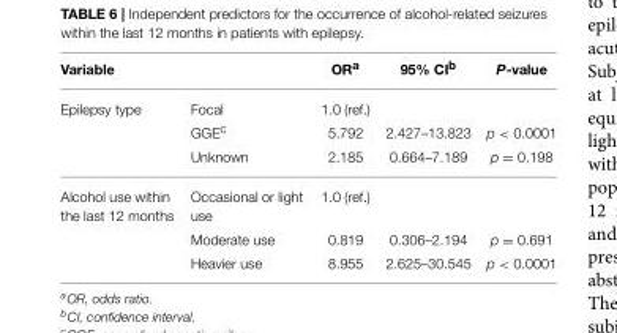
<table><thead><tr><td>Variable</td><td></td><td>OR<sup>a</sup></td><td>95% CI<sup>b</sup></td><td>P-value</td></tr></thead><tbody><tr><td rowspan="3">Epilepsy type</td><td>Focal</td><td>1.0 (ref.)</td><td></td><td></td></tr><tr><td>GGE<sup>c</sup></td><td>5.792</td><td>2.427–13.823</td><td>p &lt; 0.0001</td></tr><tr><td>Unknown</td><td>2.185</td><td>0.664–7.189</td><td>p = 0.198</td></tr><tr><td rowspan="3">Alcohol use within the last 12 months</td><td>Occasional or light use</td><td>1.0 (ref.)</td><td></td><td></td></tr><tr><td>Moderate use</td><td>0.819</td><td>0.306–2.194</td><td>p = 0.691</td></tr><tr><td>Heavier use</td><td>8.955</td><td>2.625–30.545</td><td>p &lt; 0.0001</td></tr></tbody></table>